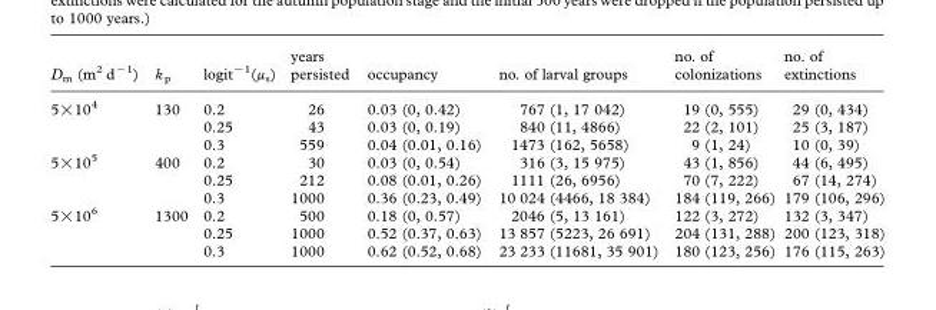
<table><thead><tr><td>D<sub>m</sub> (m<sup>2</sup> d<sup>−1</sup>)</td><td>k <sub>p</sub></td><td>logit<sup>−1</sup>(μ<sub>s</sub>)</td><td>years persisted</td><td>occupancy</td><td>no. of larval groups</td><td>no. of colonizations</td><td>no. of extinctions</td></tr></thead><tbody><tr><td rowspan="3">5×10<sup>4</sup></td><td>130</td><td>0.2</td><td>26</td><td>0.03 (0, 0.42)</td><td>767 (1, 17 042)</td><td>19 (0, 555)</td><td>29 (0, 434)</td></tr><tr><td></td><td>0.25</td><td>43</td><td>0.03 (0, 0.19)</td><td>840 (11, 4866)</td><td>22 (2, 101)</td><td>25 (3, 187)</td></tr><tr><td></td><td>0.3</td><td>559</td><td>0.04 (0.01, 0.16)</td><td>1473 (162, 5658)</td><td>9 (1, 24)</td><td>10 (0, 39)</td></tr><tr><td rowspan="3">5×10<sup>5</sup></td><td>400</td><td>0.2</td><td>30</td><td>0.03 (0, 0.54)</td><td>316 (3, 15 975)</td><td>43 (1, 856)</td><td>44 (6, 495)</td></tr><tr><td></td><td>0.25</td><td>212</td><td>0.08 (0.01, 0.26)</td><td>1111 (26, 6956)</td><td>70 (7, 222)</td><td>67 (14, 274)</td></tr><tr><td></td><td>0.3</td><td>1000</td><td>0.36 (0.23, 0.49)</td><td>10 024 (4466, 18 384)</td><td>184 (119, 266)</td><td>179 (106, 296)</td></tr><tr><td rowspan="3">5×10<sup>6</sup></td><td>1300</td><td>0.2</td><td>500</td><td>0.18 (0, 0.57)</td><td>2046 (5, 13 161)</td><td>122 (3, 272)</td><td>132 (3, 347)</td></tr><tr><td></td><td>0.25</td><td>1000</td><td>0.52 (0.37, 0.63)</td><td>13 857 (5223, 26 691)</td><td>204 (131, 288)</td><td>200 (123, 318)</td></tr><tr><td></td><td>0.3</td><td>1000</td><td>0.62 (0.52, 0.68)</td><td>23 233 (11681, 35 901)</td><td>180 (123, 256)</td><td>176 (115, 263)</td></tr></tbody></table>